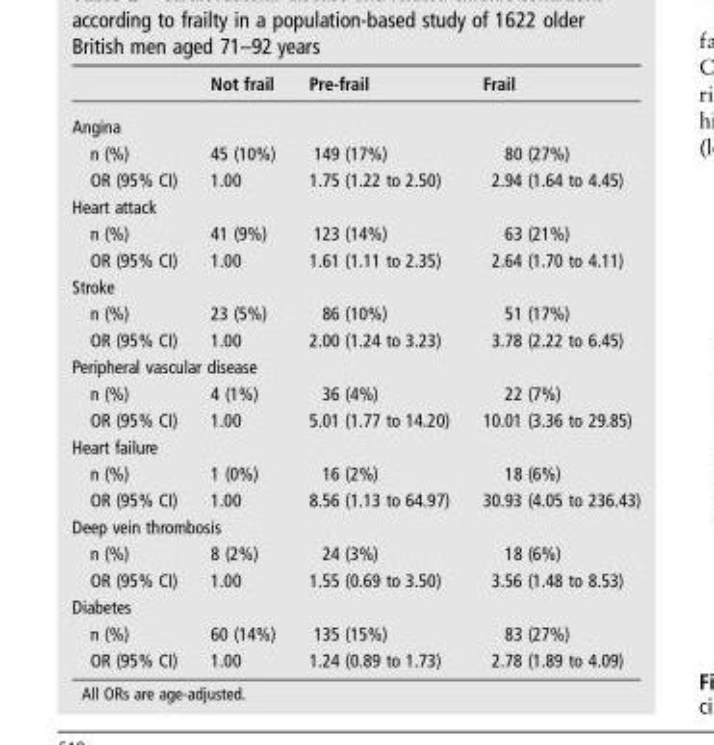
<table><thead><tr><td></td><td>Not frail</td><td>Pre-frail</td><td>Frail</td></tr></thead><tbody><tr><td colspan="4">Angina</td></tr><tr><td>n (%)</td><td>45 (10%)</td><td>149 (17%)</td><td>80 (27%)</td></tr><tr><td>OR (95% CI)</td><td>1.00</td><td>1.75 (1.22 to 2.50)</td><td>2.94 (1.64 to 4.45)</td></tr><tr><td colspan="4">Heart attack</td></tr><tr><td>n (%)</td><td>41 (9%)</td><td>123 (14%)</td><td>63 (21%)</td></tr><tr><td>OR (95% CI)</td><td>1.00</td><td>1.61 (1.11 to 2.35)</td><td>2.64 (1.70 to 4.11)</td></tr><tr><td colspan="4">Stroke</td></tr><tr><td>n (%)</td><td>23 (5%)</td><td>86 (10%)</td><td>51 (17%)</td></tr><tr><td>OR (95% CI)</td><td>1.00</td><td>2.00 (1.24 to 3.23)</td><td>3.78 (2.22 to 6.45)</td></tr><tr><td colspan="4">Peripheral vascular disease</td></tr><tr><td>n (%)</td><td>4 (1%)</td><td>36 (4%)</td><td>22 (7%)</td></tr><tr><td>OR (95% CI)</td><td>1.00</td><td>5.01 (1.77 to 14.20)</td><td>10.01 (3.36 to 29.85)</td></tr><tr><td colspan="4">Heart failure</td></tr><tr><td>n (%)</td><td>1 (0%)</td><td>16 (2%)</td><td>18 (6%)</td></tr><tr><td>OR (95% CI)</td><td>1.00</td><td>8.56 (1.13 to 64.97)</td><td>30.93 (4.05 to 236.43)</td></tr><tr><td colspan="4">Deep vein thrombosis</td></tr><tr><td>n (%)</td><td>8 (2%)</td><td>24 (3%)</td><td>18 (6%)</td></tr><tr><td>OR (95% CI)</td><td>1.00</td><td>1.55 (0.69 to 3.50)</td><td>3.56 (1.48 to 8.53)</td></tr><tr><td colspan="4">Diabetes</td></tr><tr><td>n (%)</td><td>60 (14%)</td><td>135 (15%)</td><td>83 (27%)</td></tr><tr><td>OR (95% CI)</td><td>1.00</td><td>1.24 (0.89 to 1.73)</td><td>2.78 (1.89 to 4.09)</td></tr></tbody></table>